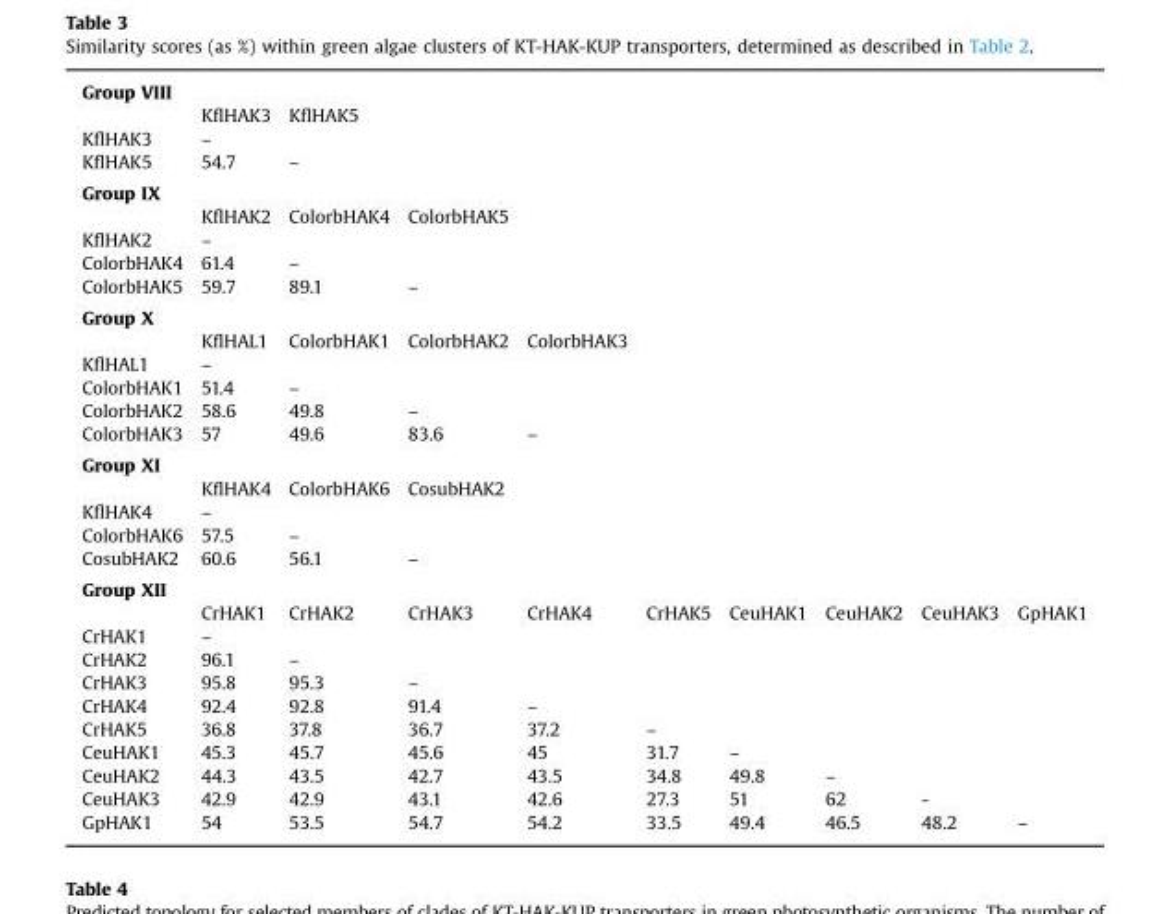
<table><tbody><tr><td colspan="10">Group VIII</td></tr><tr><td></td><td>KflHAK3</td><td>KflHAK5</td><td></td><td></td><td></td><td></td><td></td><td></td><td></td></tr><tr><td>KflHAK3</td><td>–</td><td></td><td></td><td></td><td></td><td></td><td></td><td></td><td></td></tr><tr><td>KflHAK5</td><td>54.7</td><td>–</td><td></td><td></td><td></td><td></td><td></td><td></td><td></td></tr><tr><td colspan="10">Group IX</td></tr><tr><td></td><td>KflHAK2</td><td>ColorbHAK4</td><td>ColorbHAK5</td><td></td><td></td><td></td><td></td><td></td><td></td></tr><tr><td>KflHAK2</td><td>–</td><td></td><td></td><td></td><td></td><td></td><td></td><td></td><td></td></tr><tr><td>ColorbHAK4</td><td>61.4</td><td>–</td><td></td><td></td><td></td><td></td><td></td><td></td><td></td></tr><tr><td>ColorbHAK5</td><td>59.7</td><td>89.1</td><td>–</td><td></td><td></td><td></td><td></td><td></td><td></td></tr><tr><td colspan="10">Group X</td></tr><tr><td></td><td>KflHAL1</td><td>ColorbHAK1</td><td>ColorbHAK2</td><td>ColorbHAK3</td><td></td><td></td><td></td><td></td><td></td></tr><tr><td>KflHAL1</td><td>–</td><td></td><td></td><td></td><td></td><td></td><td></td><td></td><td></td></tr><tr><td>ColorbHAK1</td><td>51.4</td><td>–</td><td></td><td></td><td></td><td></td><td></td><td></td><td></td></tr><tr><td>ColorbHAK2</td><td>58.6</td><td>49.8</td><td>–</td><td></td><td></td><td></td><td></td><td></td><td></td></tr><tr><td>ColorbHAK3</td><td>57</td><td>49.6</td><td>83.6</td><td>–</td><td></td><td></td><td></td><td></td><td></td></tr><tr><td colspan="10">Group XI</td></tr><tr><td></td><td>KflHAK4</td><td>ColorbHAK6</td><td>CosubHAK2</td><td></td><td></td><td></td><td></td><td></td><td></td></tr><tr><td>KflHAK4</td><td>–</td><td></td><td></td><td></td><td></td><td></td><td></td><td></td><td></td></tr><tr><td>ColorbHAK6</td><td>57.5</td><td>–</td><td></td><td></td><td></td><td></td><td></td><td></td><td></td></tr><tr><td>CosubHAK2</td><td>60.6</td><td>56.1</td><td>–</td><td></td><td></td><td></td><td></td><td></td><td></td></tr><tr><td colspan="10">Group XII</td></tr><tr><td></td><td>CrHAK1</td><td>CrHAK2</td><td>CrHAK3</td><td>CrHAK4</td><td>CrHAK5</td><td>CeuHAK1</td><td>CeuHAK2</td><td>CeuHAK3</td><td>GpHAK1</td></tr><tr><td>CrHAK1</td><td>–</td><td></td><td></td><td></td><td></td><td></td><td></td><td></td><td></td></tr><tr><td>CrHAK2</td><td>96.1</td><td>–</td><td></td><td></td><td></td><td></td><td></td><td></td><td></td></tr><tr><td>CrHAK3</td><td>95.8</td><td>95.3</td><td>–</td><td></td><td></td><td></td><td></td><td></td><td></td></tr><tr><td>CrHAK4</td><td>92.4</td><td>92.8</td><td>91.4</td><td>–</td><td></td><td></td><td></td><td></td><td></td></tr><tr><td>CrHAK5</td><td>36.8</td><td>37.8</td><td>36.7</td><td>37.2</td><td>–</td><td></td><td></td><td></td><td></td></tr><tr><td>CeuHAK1</td><td>45.3</td><td>45.7</td><td>45.6</td><td>45</td><td>31.7</td><td>–</td><td></td><td></td><td></td></tr><tr><td>CeuHAK2</td><td>44.3</td><td>43.5</td><td>42.7</td><td>43.5</td><td>34.8</td><td>49.8</td><td>–</td><td></td><td></td></tr><tr><td>CeuHAK3</td><td>42.9</td><td>42.9</td><td>43.1</td><td>42.6</td><td>27.3</td><td>51</td><td>62</td><td>-</td><td></td></tr><tr><td>GpHAK1</td><td>54</td><td>53.5</td><td>54.7</td><td>54.2</td><td>33.5</td><td>49.4</td><td>46.5</td><td>48.2</td><td>–</td></tr></tbody></table>